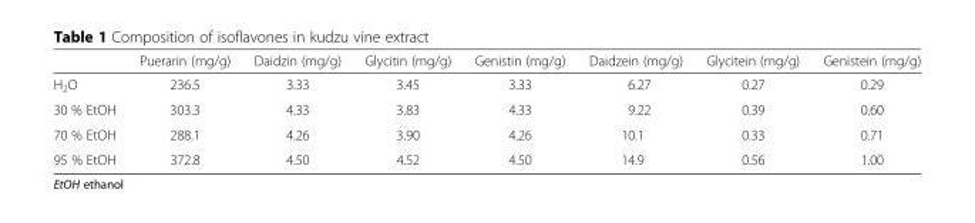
<table><thead><tr><td></td><td>Puerarin (mg/g)</td><td>Daidzin (mg/g)</td><td>Glycitin (mg/g)</td><td>Genistin (mg/g)</td><td>Daidzein (mg/g)</td><td>Glycitein (mg/g)</td><td>Genistein (mg/g)</td></tr></thead><tbody><tr><td>H<sub>2</sub>O</td><td>236.5</td><td>3.33</td><td>3.45</td><td>3.33</td><td>6.27</td><td>0.27</td><td>0.29</td></tr><tr><td>30 % EtOH</td><td>303.3</td><td>4.33</td><td>3.83</td><td>4.33</td><td>9.22</td><td>0.39</td><td>0.60</td></tr><tr><td>70 % EtOH</td><td>288.1</td><td>4.26</td><td>3.90</td><td>4.26</td><td>10.1</td><td>0.33</td><td>0.71</td></tr><tr><td>95 % EtOH</td><td>372.8</td><td>4.50</td><td>4.52</td><td>4.50</td><td>14.9</td><td>0.56</td><td>1.00</td></tr></tbody></table>